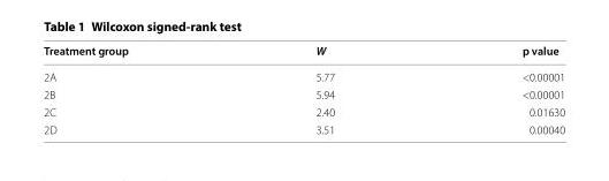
<table><thead><tr><td>Treatment group</td><td>W</td><td>p value</td></tr></thead><tbody><tr><td>2A</td><td>5.77</td><td>&lt;0.00001</td></tr><tr><td>2B</td><td>5.94</td><td>&lt;0.00001</td></tr><tr><td>2C</td><td>2.40</td><td>0.01630</td></tr><tr><td>2D</td><td>3.51</td><td>0.00040</td></tr></tbody></table>